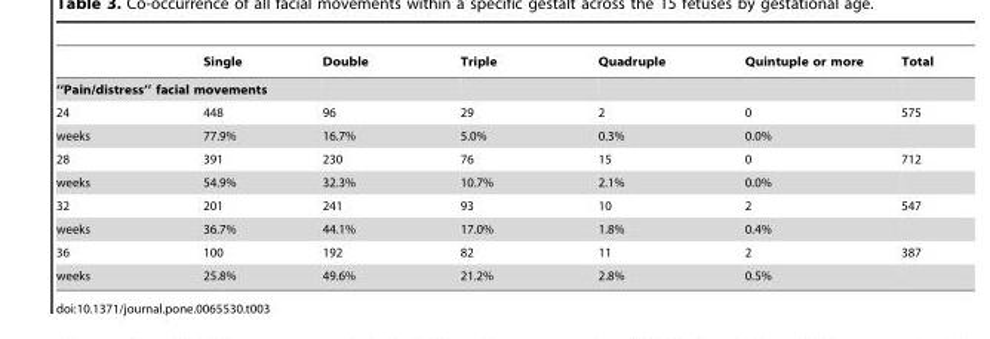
<table><thead><tr><td></td><td>Single</td><td>Double</td><td>Triple</td><td>Quadruple</td><td>Quintuple or more</td><td>Total</td></tr></thead><tbody><tr><td colspan="7">‘‘Pain/distress’’ facial movements</td></tr><tr><td>24</td><td>448</td><td>96</td><td>29</td><td>2</td><td>0</td><td>575</td></tr><tr><td>weeks</td><td>77.9%</td><td>16.7%</td><td>5.0%</td><td>0.3%</td><td>0.0%</td><td></td></tr><tr><td>28</td><td>391</td><td>230</td><td>76</td><td>15</td><td>0</td><td>712</td></tr><tr><td>weeks</td><td>54.9%</td><td>32.3%</td><td>10.7%</td><td>2.1%</td><td>0.0%</td><td></td></tr><tr><td>32</td><td>201</td><td>241</td><td>93</td><td>10</td><td>2</td><td>547</td></tr><tr><td>weeks</td><td>36.7%</td><td>44.1%</td><td>17.0%</td><td>1.8%</td><td>0.4%</td><td></td></tr><tr><td>36</td><td>100</td><td>192</td><td>82</td><td>11</td><td>2</td><td>387</td></tr><tr><td>weeks</td><td>25.8%</td><td>49.6%</td><td>21.2%</td><td>2.8%</td><td>0.5%</td><td></td></tr></tbody></table>